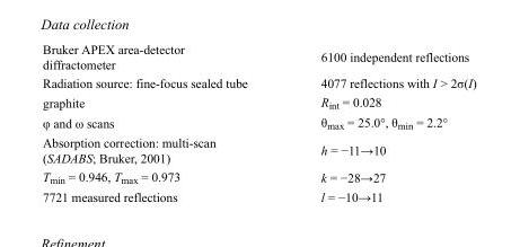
<table><tbody><tr><td>Bruker APEX area-detector diffractometer</td><td>6100 independent reflections</td></tr><tr><td>Radiation source: fine-focus sealed tube</td><td>4077 reflections with I &gt; 2σ(I)</td></tr><tr><td>graphite</td><td>R<sub>int</sub> = 0.028</td></tr><tr><td>φ and ω scans</td><td>θ<sub>max</sub> = 25.0°, θ<sub>min</sub> = 2.2°</td></tr><tr><td>Absorption correction: multi-scan (SADABS; Bruker, 2001)</td><td>h = −11→10</td></tr><tr><td>T<sub>min</sub> = 0.946, T<sub>max</sub> = 0.973</td><td>k = −28→27</td></tr><tr><td>7721 measured reflections</td><td>l = −10→11</td></tr></tbody></table>